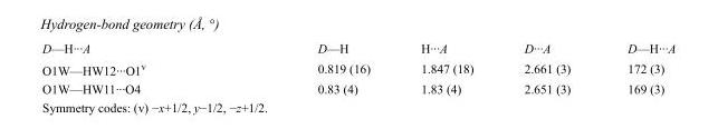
<table><tbody><tr><td>D—H···A</td><td>D—H</td><td>H···A</td><td>D···A</td><td>D—H···A</td></tr><tr><td>O1W—HW12···O1<sup>v</sup></td><td>0.819 (16)</td><td>1.847 (18)</td><td>2.661 (3)</td><td>172 (3)</td></tr><tr><td>O1W—HW11···O4</td><td>0.83 (4)</td><td>1.83 (4)</td><td>2.651 (3)</td><td>169 (3)</td></tr></tbody></table>